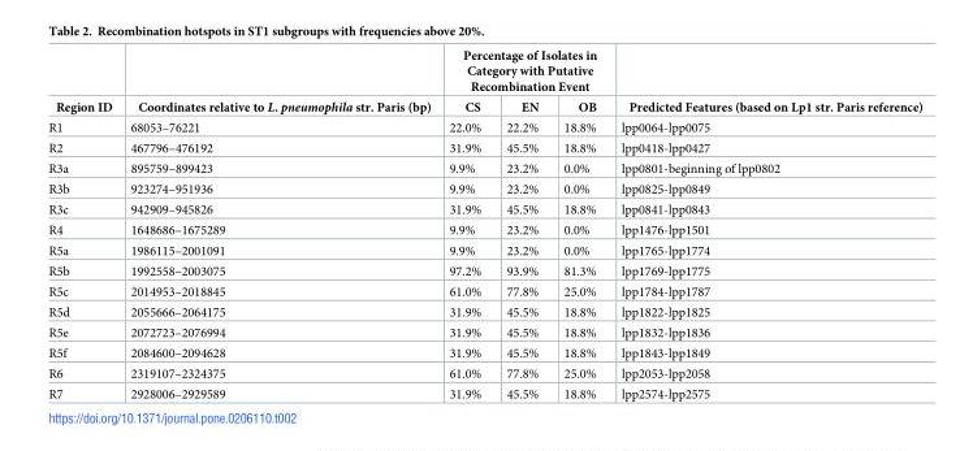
<table><thead><tr><td rowspan="2">Region ID</td><td rowspan="2">Coordinates relative to L. pneumophila str. Paris (bp)</td><td colspan="3">Percentage of Isolates in Category with Putative Recombination Event</td><td rowspan="2">Predicted Features (based on Lp1 str. Paris reference)</td></tr><tr><td>CS</td><td>EN</td><td>OB</td></tr></thead><tbody><tr><td>R1</td><td>68053–76221</td><td>22.0%</td><td>22.2%</td><td>18.8%</td><td>lpp0064-lpp0075</td></tr><tr><td>R2</td><td>467796–476192</td><td>31.9%</td><td>45.5%</td><td>18.8%</td><td>lpp0418-lpp0427</td></tr><tr><td>R3a</td><td>895759–899423</td><td>9.9%</td><td>23.2%</td><td>0.0%</td><td>lpp0801-beginning of lpp0802</td></tr><tr><td>R3b</td><td>923274–951936</td><td>9.9%</td><td>23.2%</td><td>0.0%</td><td>lpp0825-lpp0849</td></tr><tr><td>R3c</td><td>942909–945826</td><td>31.9%</td><td>45.5%</td><td>18.8%</td><td>lpp0841-lpp0843</td></tr><tr><td>R4</td><td>1648686–1675289</td><td>9.9%</td><td>23.2%</td><td>0.0%</td><td>lpp1476-lpp1501</td></tr><tr><td>R5a</td><td>1986115–2001091</td><td>9.9%</td><td>23.2%</td><td>0.0%</td><td>lpp1765-lpp1774</td></tr><tr><td>R5b</td><td>1992558–2003075</td><td>97.2%</td><td>93.9%</td><td>81.3%</td><td>lpp1769-lpp1775</td></tr><tr><td>R5c</td><td>2014953–2018845</td><td>61.0%</td><td>77.8%</td><td>25.0%</td><td>lpp1784-lpp1787</td></tr><tr><td>R5d</td><td>2055666–2064175</td><td>31.9%</td><td>45.5%</td><td>18.8%</td><td>lpp1822-lpp1825</td></tr><tr><td>R5e</td><td>2072723–2076994</td><td>31.9%</td><td>45.5%</td><td>18.8%</td><td>lpp1832-lpp1836</td></tr><tr><td>R5f</td><td>2084600–2094628</td><td>31.9%</td><td>45.5%</td><td>18.8%</td><td>lpp1843-lpp1849</td></tr><tr><td>R6</td><td>2319107–2324375</td><td>61.0%</td><td>77.8%</td><td>25.0%</td><td>lpp2053-lpp2058</td></tr><tr><td>R7</td><td>2928006–2929589</td><td>31.9%</td><td>45.5%</td><td>18.8%</td><td>lpp2574-lpp2575</td></tr></tbody></table>